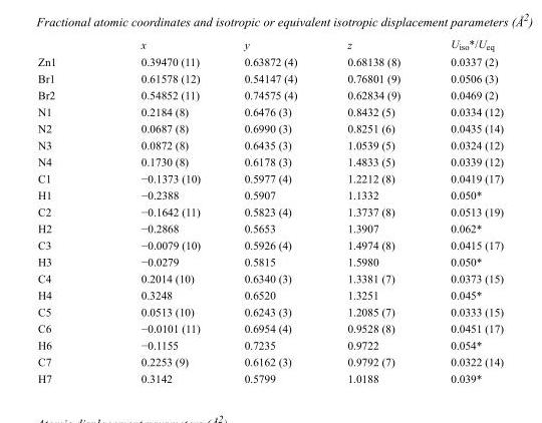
<table><thead><tr><td></td><td>x</td><td>y</td><td>z</td><td>U<sub>iso</sub>*/U<sub>eq</sub></td></tr></thead><tbody><tr><td>Zn1</td><td>0.39470 (11)</td><td>0.63872 (4)</td><td>0.68138 (8)</td><td>0.0337 (2)</td></tr><tr><td>Br1</td><td>0.61578 (12)</td><td>0.54147 (4)</td><td>0.76801 (9)</td><td>0.0506 (3)</td></tr><tr><td>Br2</td><td>0.54852 (11)</td><td>0.74575 (4)</td><td>0.62834 (9)</td><td>0.0469 (2)</td></tr><tr><td>N1</td><td>0.2184 (8)</td><td>0.6476 (3)</td><td>0.8432 (5)</td><td>0.0334 (12)</td></tr><tr><td>N2</td><td>0.0687 (8)</td><td>0.6990 (3)</td><td>0.8251 (6)</td><td>0.0435 (14)</td></tr><tr><td>N3</td><td>0.0872 (8)</td><td>0.6435 (3)</td><td>1.0539 (5)</td><td>0.0324 (12)</td></tr><tr><td>N4</td><td>0.1730 (8)</td><td>0.6178 (3)</td><td>1.4833 (5)</td><td>0.0339 (12)</td></tr><tr><td>C1</td><td>−0.1373 (10)</td><td>0.5977 (4)</td><td>1.2212 (8)</td><td>0.0419 (17)</td></tr><tr><td>H1</td><td>−0.2388</td><td>0.5907</td><td>1.1332</td><td>0.050*</td></tr><tr><td>C2</td><td>−0.1642 (11)</td><td>0.5823 (4)</td><td>1.3737 (8)</td><td>0.0513 (19)</td></tr><tr><td>H2</td><td>−0.2868</td><td>0.5653</td><td>1.3907</td><td>0.062*</td></tr><tr><td>C3</td><td>−0.0079 (10)</td><td>0.5926 (4)</td><td>1.4974 (8)</td><td>0.0415 (17)</td></tr><tr><td>H3</td><td>−0.0279</td><td>0.5815</td><td>1.5980</td><td>0.050*</td></tr><tr><td>C4</td><td>0.2014 (10)</td><td>0.6340 (3)</td><td>1.3381 (7)</td><td>0.0373 (15)</td></tr><tr><td>H4</td><td>0.3248</td><td>0.6520</td><td>1.3251</td><td>0.045*</td></tr><tr><td>C5</td><td>0.0513 (10)</td><td>0.6243 (3)</td><td>1.2085 (7)</td><td>0.0333 (15)</td></tr><tr><td>C6</td><td>−0.0101 (11)</td><td>0.6954 (4)</td><td>0.9528 (8)</td><td>0.0451 (17)</td></tr><tr><td>H6</td><td>−0.1155</td><td>0.7235</td><td>0.9722</td><td>0.054*</td></tr><tr><td>C7</td><td>0.2253 (9)</td><td>0.6162 (3)</td><td>0.9792 (7)</td><td>0.0322 (14)</td></tr><tr><td>H7</td><td>0.3142</td><td>0.5799</td><td>1.0188</td><td>0.039*</td></tr></tbody></table>